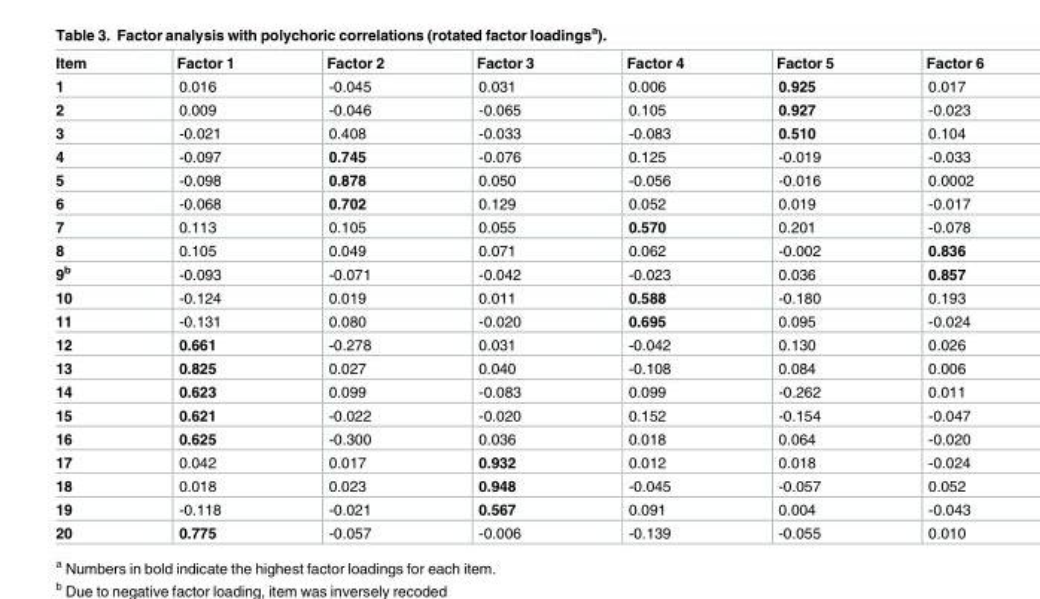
<table><thead><tr><td>Item</td><td>Factor 1</td><td>Factor 2</td><td>Factor 3</td><td>Factor 4</td><td>Factor 5</td><td>Factor 6</td></tr></thead><tbody><tr><td>1</td><td>0.016</td><td>-0.045</td><td>0.031</td><td>0.006</td><td>0.925</td><td>0.017</td></tr><tr><td>2</td><td>0.009</td><td>-0.046</td><td>-0.065</td><td>0.105</td><td>0.927</td><td>-0.023</td></tr><tr><td>3</td><td>-0.021</td><td>0.408</td><td>-0.033</td><td>-0.083</td><td>0.510</td><td>0.104</td></tr><tr><td>4</td><td>-0.097</td><td>0.745</td><td>-0.076</td><td>0.125</td><td>-0.019</td><td>-0.033</td></tr><tr><td>5</td><td>-0.098</td><td>0.878</td><td>0.050</td><td>-0.056</td><td>-0.016</td><td>0.0002</td></tr><tr><td>6</td><td>-0.068</td><td>0.702</td><td>0.129</td><td>0.052</td><td>0.019</td><td>-0.017</td></tr><tr><td>7</td><td>0.113</td><td>0.105</td><td>0.055</td><td>0.570</td><td>0.201</td><td>-0.078</td></tr><tr><td>8</td><td>0.105</td><td>0.049</td><td>0.071</td><td>0.062</td><td>-0.002</td><td>0.836</td></tr><tr><td>9<sup>b</sup></td><td>-0.093</td><td>-0.071</td><td>-0.042</td><td>-0.023</td><td>0.036</td><td>0.857</td></tr><tr><td>10</td><td>-0.124</td><td>0.019</td><td>0.011</td><td>0.588</td><td>-0.180</td><td>0.193</td></tr><tr><td>11</td><td>-0.131</td><td>0.080</td><td>-0.020</td><td>0.695</td><td>0.095</td><td>-0.024</td></tr><tr><td>12</td><td>0.661</td><td>-0.278</td><td>0.031</td><td>-0.042</td><td>0.130</td><td>0.026</td></tr><tr><td>13</td><td>0.825</td><td>0.027</td><td>0.040</td><td>-0.108</td><td>0.084</td><td>0.006</td></tr><tr><td>14</td><td>0.623</td><td>0.099</td><td>-0.083</td><td>0.099</td><td>-0.262</td><td>0.011</td></tr><tr><td>15</td><td>0.621</td><td>-0.022</td><td>-0.020</td><td>0.152</td><td>-0.154</td><td>-0.047</td></tr><tr><td>16</td><td>0.625</td><td>-0.300</td><td>0.036</td><td>0.018</td><td>0.064</td><td>-0.020</td></tr><tr><td>17</td><td>0.042</td><td>0.017</td><td>0.932</td><td>0.012</td><td>0.018</td><td>-0.024</td></tr><tr><td>18</td><td>0.018</td><td>0.023</td><td>0.948</td><td>-0.045</td><td>-0.057</td><td>0.052</td></tr><tr><td>19</td><td>-0.118</td><td>-0.021</td><td>0.567</td><td>0.091</td><td>0.004</td><td>-0.043</td></tr><tr><td>20</td><td>0.775</td><td>-0.057</td><td>-0.006</td><td>-0.139</td><td>-0.055</td><td>0.010</td></tr></tbody></table>